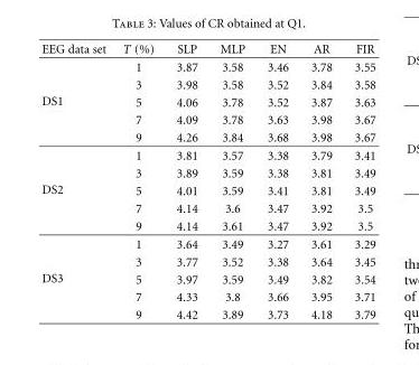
<table><thead><tr><td>EEG data set</td><td>T (%)</td><td>SLP</td><td>MLP</td><td>EN</td><td>AR</td><td>FIR</td></tr></thead><tbody><tr><td rowspan="5">DS1</td><td>1</td><td>3.87</td><td>3.58</td><td>3.46</td><td>3.78</td><td>3.55</td></tr><tr><td>3</td><td>3.98</td><td>3.58</td><td>3.52</td><td>3.84</td><td>3.58</td></tr><tr><td>5</td><td>4.06</td><td>3.78</td><td>3.52</td><td>3.87</td><td>3.63</td></tr><tr><td>7</td><td>4.09</td><td>3.78</td><td>3.63</td><td>3.98</td><td>3.67</td></tr><tr><td>9</td><td>4.26</td><td>3.84</td><td>3.68</td><td>3.98</td><td>3.67</td></tr><tr><td rowspan="5">DS2</td><td>1</td><td>3.81</td><td>3.57</td><td>3.38</td><td>3.79</td><td>3.41</td></tr><tr><td>3</td><td>3.89</td><td>3.59</td><td>3.38</td><td>3.81</td><td>3.49</td></tr><tr><td>5</td><td>4.01</td><td>3.59</td><td>3.41</td><td>3.81</td><td>3.49</td></tr><tr><td>7</td><td>4.14</td><td>3.6</td><td>3.47</td><td>3.92</td><td>3.5</td></tr><tr><td>9</td><td>4.14</td><td>3.61</td><td>3.47</td><td>3.92</td><td>3.5</td></tr><tr><td rowspan="5">DS3</td><td>1</td><td>3.64</td><td>3.49</td><td>3.27</td><td>3.61</td><td>3.29</td></tr><tr><td>3</td><td>3.77</td><td>3.52</td><td>3.38</td><td>3.64</td><td>3.45</td></tr><tr><td>5</td><td>3.97</td><td>3.59</td><td>3.49</td><td>3.82</td><td>3.54</td></tr><tr><td>7</td><td>4.33</td><td>3.8</td><td>3.66</td><td>3.95</td><td>3.71</td></tr><tr><td>9</td><td>4.42</td><td>3.89</td><td>3.73</td><td>4.18</td><td>3.79</td></tr></tbody></table>